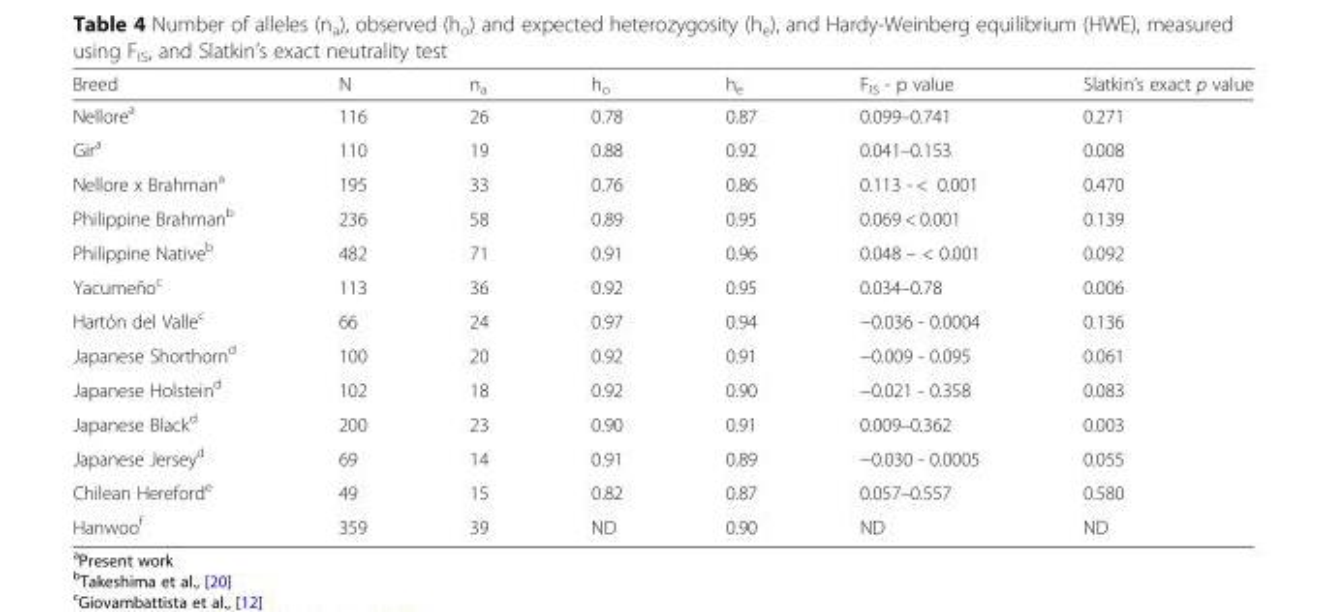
<table><thead><tr><td>Breed</td><td>N</td><td>n<sub>a</sub></td><td>h<sub>o</sub></td><td>h<sub>e</sub></td><td>F<sub>IS</sub> - p value</td><td>Slatkin’s exact p value</td></tr></thead><tbody><tr><td>Nellore<sup>a</sup></td><td>116</td><td>26</td><td>0.78</td><td>0.87</td><td>0.099–0.741</td><td>0.271</td></tr><tr><td>Gir<sup>a</sup></td><td>110</td><td>19</td><td>0.88</td><td>0.92</td><td>0.041–0.153</td><td>0.008</td></tr><tr><td>Nellore x Brahman<sup>a</sup></td><td>195</td><td>33</td><td>0.76</td><td>0.86</td><td>0.113 - &lt; 0.001</td><td>0.470</td></tr><tr><td>Philippine Brahman<sup>b</sup></td><td>236</td><td>58</td><td>0.89</td><td>0.95</td><td>0.069 &lt; 0.001</td><td>0.139</td></tr><tr><td>Philippine Native<sup>b</sup></td><td>482</td><td>71</td><td>0.91</td><td>0.96</td><td>0.048 – &lt; 0.001</td><td>0.092</td></tr><tr><td>Yacumeño<sup>c</sup></td><td>113</td><td>36</td><td>0.92</td><td>0.95</td><td>0.034–0.78</td><td>0.006</td></tr><tr><td>Hartón del Valle<sup>c</sup></td><td>66</td><td>24</td><td>0.97</td><td>0.94</td><td>−0.036 - 0.0004</td><td>0.136</td></tr><tr><td>Japanese Shorthorn<sup>d</sup></td><td>100</td><td>20</td><td>0.92</td><td>0.91</td><td>−0.009 - 0.095</td><td>0.061</td></tr><tr><td>Japanese Holstein<sup>d</sup></td><td>102</td><td>18</td><td>0.92</td><td>0.90</td><td>−0.021 - 0.358</td><td>0.083</td></tr><tr><td>Japanese Black<sup>d</sup></td><td>200</td><td>23</td><td>0.90</td><td>0.91</td><td>0.009–0.362</td><td>0.003</td></tr><tr><td>Japanese Jersey<sup>d</sup></td><td>69</td><td>14</td><td>0.91</td><td>0.89</td><td>−0.030 - 0.0005</td><td>0.055</td></tr><tr><td>Chilean Hereford<sup>e</sup></td><td>49</td><td>15</td><td>0.82</td><td>0.87</td><td>0.057–0.557</td><td>0.580</td></tr><tr><td>Hanwoo<sup>f</sup></td><td>359</td><td>39</td><td>ND</td><td>0.90</td><td>ND</td><td>ND</td></tr></tbody></table>